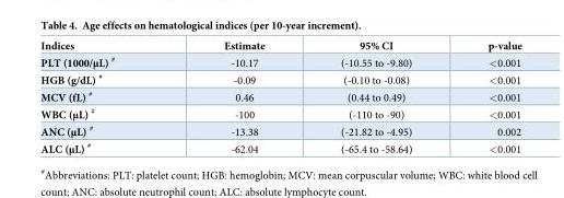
<table><thead><tr><td>Indices</td><td>Estimate</td><td>95% CI</td><td>p-value</td></tr></thead><tbody><tr><td>PLT (1000/μL) <sup>#</sup></td><td>-10.17</td><td>(-10.55 to -9.80)</td><td>&lt;0.001</td></tr><tr><td>HGB (g/dL) <sup>#</sup></td><td>-0.09</td><td>(-0.10 to -0.08)</td><td>&lt;0.001</td></tr><tr><td>MCV (fL) <sup>#</sup></td><td>0.46</td><td>(0.44 to 0.49)</td><td>&lt;0.001</td></tr><tr><td>WBC (μL) <sup>#</sup></td><td>-100</td><td>(-110 to -90)</td><td>&lt;0.001</td></tr><tr><td>ANC (μL) <sup>#</sup></td><td>-13.38</td><td>(-21.82 to -4.95)</td><td>0.002</td></tr><tr><td>ALC (μL) <sup>#</sup></td><td>-62.04</td><td>(-65.4 to -58.64)</td><td>&lt;0.001</td></tr></tbody></table>